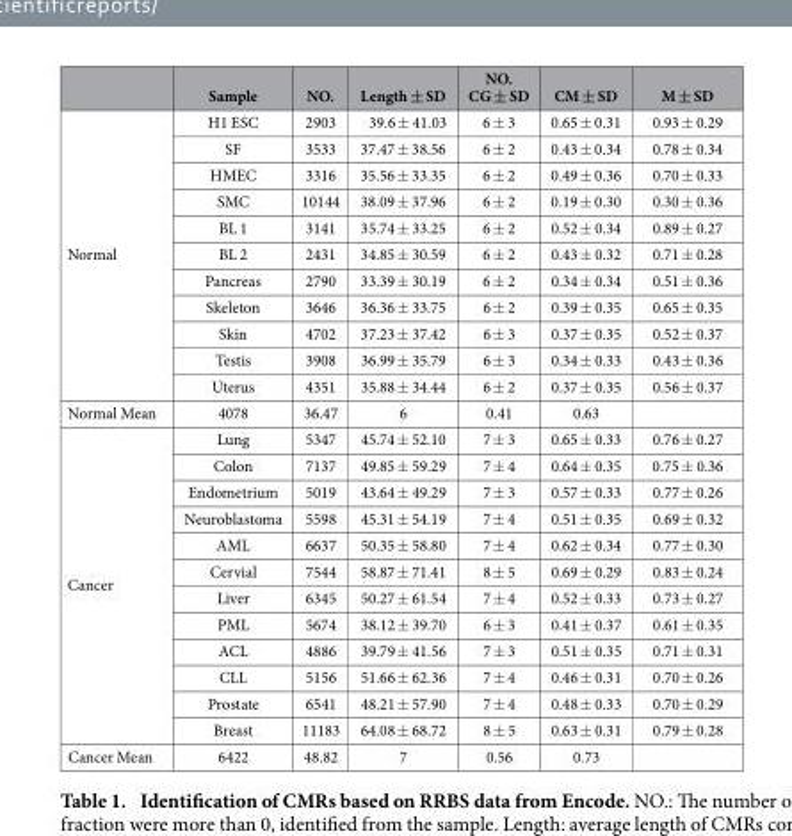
<table><thead><tr><td></td><td>Sample</td><td>NO.</td><td>Length ± SD</td><td>NO. CG ± SD</td><td>CM ± SD</td><td>M ± SD</td></tr></thead><tbody><tr><td rowspan="11">Normal</td><td>H1 ESC</td><td>2903</td><td>39.6 ± 41.03</td><td>6 ± 3</td><td>0.65 ± 0.31</td><td>0.93 ± 0.29</td></tr><tr><td>SF</td><td>3533</td><td>37.47 ± 38.56</td><td>6 ± 2</td><td>0.43 ± 0.34</td><td>0.78 ± 0.34</td></tr><tr><td>HMEC</td><td>3316</td><td>35.56 ± 33.35</td><td>6 ± 2</td><td>0.49 ± 0.36</td><td>0.70 ± 0.33</td></tr><tr><td>SMC</td><td>10144</td><td>38.09 ± 37.96</td><td>6 ± 2</td><td>0.19 ± 0.30</td><td>0.30 ± 0.36</td></tr><tr><td>BL 1</td><td>3141</td><td>35.74 ± 33.25</td><td>6 ± 2</td><td>0.52 ± 0.34</td><td>0.89 ± 0.27</td></tr><tr><td>BL 2</td><td>2431</td><td>34.85 ± 30.59</td><td>6 ± 2</td><td>0.43 ± 0.32</td><td>0.71 ± 0.28</td></tr><tr><td>Pancreas</td><td>2790</td><td>33.39 ± 30.19</td><td>6 ± 2</td><td>0.34 ± 0.34</td><td>0.51 ± 0.36</td></tr><tr><td>Skeleton</td><td>3646</td><td>36.36 ± 33.75</td><td>6 ± 2</td><td>0.39 ± 0.35</td><td>0.65 ± 0.35</td></tr><tr><td>Skin</td><td>4702</td><td>37.23 ± 37.42</td><td>6 ± 3</td><td>0.37 ± 0.35</td><td>0.52 ± 0.37</td></tr><tr><td>Testis</td><td>3908</td><td>36.99 ± 35.79</td><td>6 ± 3</td><td>0.34 ± 0.33</td><td>0.43 ± 0.36</td></tr><tr><td>Uterus</td><td>4351</td><td>35.88 ± 34.44</td><td>6 ± 2</td><td>0.37 ± 0.35</td><td>0.56 ± 0.37</td></tr><tr><td>Normal Mean</td><td>4078</td><td>36.47</td><td>6</td><td>0.41</td><td>0.63</td><td></td></tr><tr><td rowspan="12">Cancer</td><td>Lung</td><td>5347</td><td>45.74 ± 52.10</td><td>7 ± 3</td><td>0.65 ± 0.33</td><td>0.76 ± 0.27</td></tr><tr><td>Colon</td><td>7137</td><td>49.85 ± 59.29</td><td>7 ± 4</td><td>0.64 ± 0.35</td><td>0.75 ± 0.36</td></tr><tr><td>Endometrium</td><td>5019</td><td>43.64 ± 49.29</td><td>7 ± 3</td><td>0.57 ± 0.33</td><td>0.77 ± 0.26</td></tr><tr><td>Neuroblastoma</td><td>5598</td><td>45.31 ± 54.19</td><td>7 ± 4</td><td>0.51 ± 0.35</td><td>0.69 ± 0.32</td></tr><tr><td>AML</td><td>6637</td><td>50.35 ± 58.80</td><td>7 ± 4</td><td>0.62 ± 0.34</td><td>0.77 ± 0.30</td></tr><tr><td>Cervial</td><td>7544</td><td>58.87 ± 71.41</td><td>8 ± 5</td><td>0.69 ± 0.29</td><td>0.83 ± 0.24</td></tr><tr><td>Liver</td><td>6345</td><td>50.27 ± 61.54</td><td>7 ± 4</td><td>0.52 ± 0.33</td><td>0.73 ± 0.27</td></tr><tr><td>PML</td><td>5674</td><td>38.12 ± 39.70</td><td>6 ± 3</td><td>0.41 ± 0.37</td><td>0.61 ± 0.35</td></tr><tr><td>ACL</td><td>4886</td><td>39.79 ± 41.56</td><td>7 ± 3</td><td>0.51 ± 0.35</td><td>0.71 ± 0.31</td></tr><tr><td>CLL</td><td>5156</td><td>51.66 ± 62.36</td><td>7 ± 4</td><td>0.46 ± 0.31</td><td>0.70 ± 0.26</td></tr><tr><td>Prostate</td><td>6541</td><td>48.21 ± 57.90</td><td>7 ± 4</td><td>0.48 ± 0.33</td><td>0.70 ± 0.29</td></tr><tr><td>Breast</td><td>11183</td><td>64.08 ± 68.72</td><td>8 ± 5</td><td>0.63 ± 0.31</td><td>0.79 ± 0.28</td></tr><tr><td>Cancer Mean</td><td>6422</td><td>48.82</td><td>7</td><td>0.56</td><td>0.73</td><td></td></tr></tbody></table>